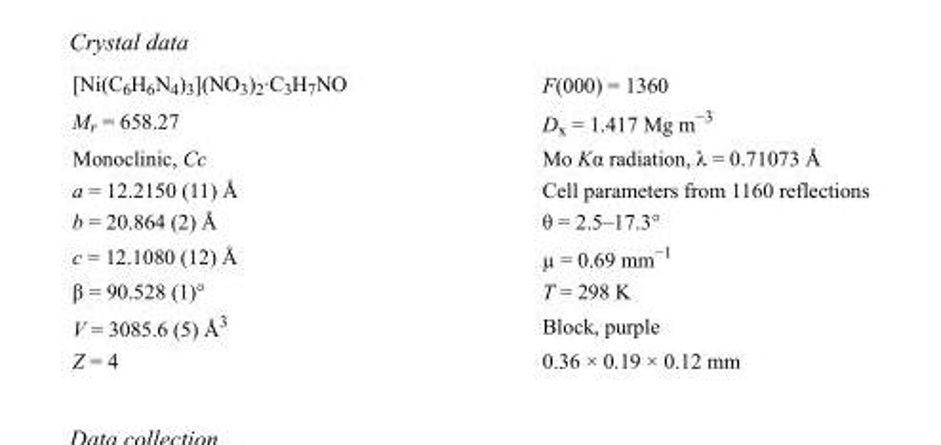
<table><tbody><tr><td>[Ni(C<sub>6</sub>H<sub>6</sub>N<sub>4</sub>)<sub>3</sub>](NO<sub>3</sub>)<sub>2</sub>·C<sub>3</sub>H<sub>7</sub>NO</td><td>F(000) = 1360</td></tr><tr><td>M<sub>r</sub> = 658.27</td><td>D<sub>x</sub> = 1.417 Mg m<sup>−3</sup></td></tr><tr><td>Monoclinic, Cc</td><td>Mo Kα radiation, λ = 0.71073 Å</td></tr><tr><td>a = 12.2150 (11) Å</td><td>Cell parameters from 1160 reflections</td></tr><tr><td>b = 20.864 (2) Å</td><td>θ = 2.5–17.3°</td></tr><tr><td>c = 12.1080 (12) Å</td><td>µ = 0.69 mm<sup>−1</sup></td></tr><tr><td>β = 90.528 (1)°</td><td>T = 298 K</td></tr><tr><td>V = 3085.6 (5) Å<sup>3</sup></td><td>Block, purple</td></tr><tr><td>Z = 4</td><td>0.36 × 0.19 × 0.12 mm</td></tr></tbody></table>